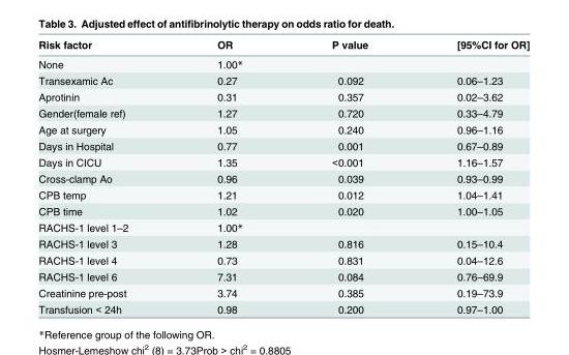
<table><thead><tr><td>Risk factor</td><td>OR</td><td>P value</td><td>[95%CI for OR]</td></tr></thead><tbody><tr><td>None</td><td>1.00*</td><td></td><td></td></tr><tr><td>Transexamic Ac</td><td>0.27</td><td>0.092</td><td>0.06–1.23</td></tr><tr><td>Aprotinin</td><td>0.31</td><td>0.357</td><td>0.02–3.62</td></tr><tr><td>Gender(female ref)</td><td>1.27</td><td>0.720</td><td>0.33–4.79</td></tr><tr><td>Age at surgery</td><td>1.05</td><td>0.240</td><td>0.96–1.16</td></tr><tr><td>Days in Hospital</td><td>0.77</td><td>0.001</td><td>0.67–0.89</td></tr><tr><td>Days in CICU</td><td>1.35</td><td>&lt;0.001</td><td>1.16–1.57</td></tr><tr><td>Cross-clamp Ao</td><td>0.96</td><td>0.039</td><td>0.93–0.99</td></tr><tr><td>CPB temp</td><td>1.21</td><td>0.012</td><td>1.04–1.41</td></tr><tr><td>CPB time</td><td>1.02</td><td>0.020</td><td>1.00–1.05</td></tr><tr><td>RACHS-1 level 1–2</td><td>1.00*</td><td></td><td></td></tr><tr><td>RACHS-1 level 3</td><td>1.28</td><td>0.816</td><td>0.15–10.4</td></tr><tr><td>RACHS-1 level 4</td><td>0.73</td><td>0.831</td><td>0.04–12.6</td></tr><tr><td>RACHS-1 level 6</td><td>7.31</td><td>0.084</td><td>0.76–69.9</td></tr><tr><td>Creatinine pre-post</td><td>3.74</td><td>0.385</td><td>0.19–73.9</td></tr><tr><td>Transfusion &lt; 24h</td><td>0.98</td><td>0.200</td><td>0.97–1.00</td></tr></tbody></table>